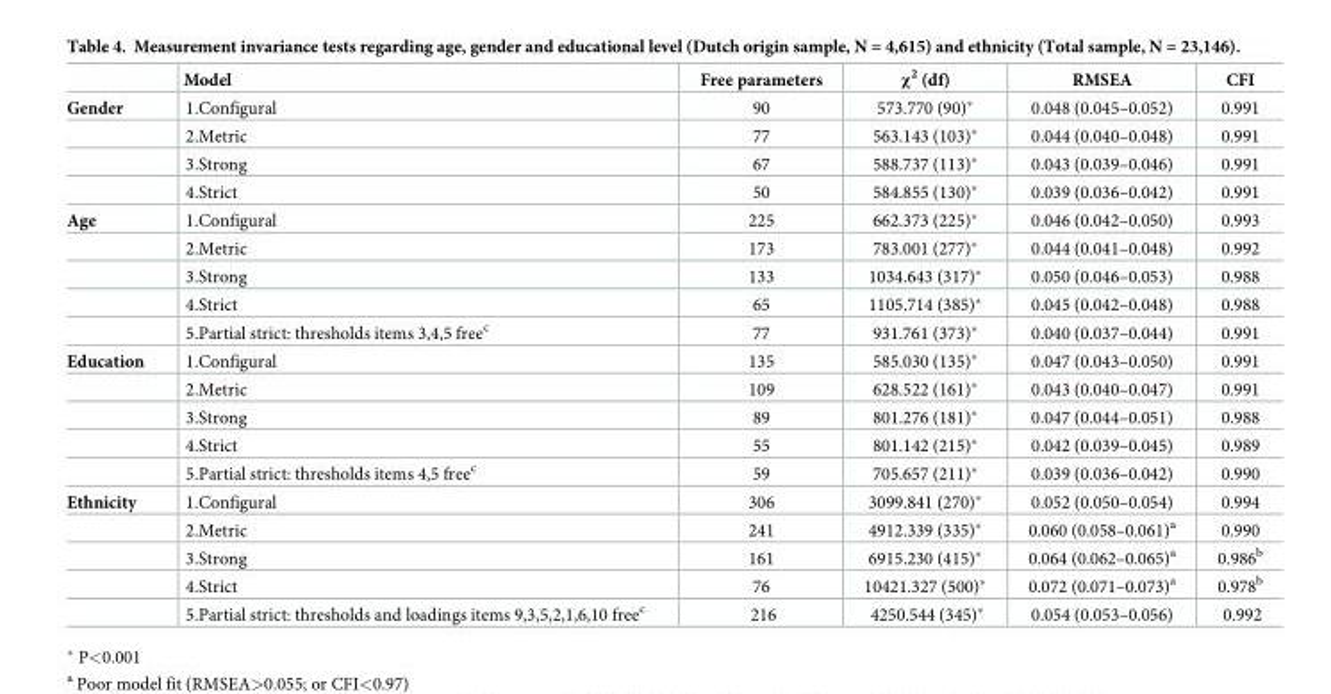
<table><thead><tr><td></td><td>Model</td><td>Free parameters</td><td>χ<sup>2</sup> (df)</td><td>RMSEA</td><td>CFI</td></tr></thead><tbody><tr><td rowspan="4">Gender</td><td>1.Configural</td><td>90</td><td>573.770 (90)*</td><td>0.048 (0.045–0.052)</td><td>0.991</td></tr><tr><td>2.Metric</td><td>77</td><td>563.143 (103)*</td><td>0.044 (0.040–0.048)</td><td>0.991</td></tr><tr><td>3.Strong</td><td>67</td><td>588.737 (113)*</td><td>0.043 (0.039–0.046)</td><td>0.991</td></tr><tr><td>4.Strict</td><td>50</td><td>584.855 (130)*</td><td>0.039 (0.036–0.042)</td><td>0.991</td></tr><tr><td rowspan="5">Age</td><td>1.Configural</td><td>225</td><td>662.373 (225)*</td><td>0.046 (0.042–0.050)</td><td>0.993</td></tr><tr><td>2.Metric</td><td>173</td><td>783.001 (277)*</td><td>0.044 (0.041–0.048)</td><td>0.992</td></tr><tr><td>3.Strong</td><td>133</td><td>1034.643 (317)*</td><td>0.050 (0.046–0.053)</td><td>0.988</td></tr><tr><td>4.Strict</td><td>65</td><td>1105.714 (385)*</td><td>0.045 (0.042–0.048)</td><td>0.988</td></tr><tr><td>5.Partial strict: thresholds items 3,4,5 free<sup>c</sup></td><td>77</td><td>931.761 (373)*</td><td>0.040 (0.037–0.044)</td><td>0.991</td></tr><tr><td rowspan="5">Education</td><td>1.Configural</td><td>135</td><td>585.030 (135)*</td><td>0.047 (0.043–0.050)</td><td>0.991</td></tr><tr><td>2.Metric</td><td>109</td><td>628.522 (161)*</td><td>0.043 (0.040–0.047)</td><td>0.991</td></tr><tr><td>3.Strong</td><td>89</td><td>801.276 (181)*</td><td>0.047 (0.044–0.051)</td><td>0.988</td></tr><tr><td>4.Strict</td><td>55</td><td>801.142 (215)*</td><td>0.042 (0.039–0.045)</td><td>0.989</td></tr><tr><td>5.Partial strict: thresholds items 4,5 free<sup>c</sup></td><td>59</td><td>705.657 (211)*</td><td>0.039 (0.036–0.042)</td><td>0.990</td></tr><tr><td rowspan="5">Ethnicity</td><td>1.Configural</td><td>306</td><td>3099.841 (270)*</td><td>0.052 (0.050–0.054)</td><td>0.994</td></tr><tr><td>2.Metric</td><td>241</td><td>4912.339 (335)*</td><td>0.060 (0.058–0.061)<sup>a</sup></td><td>0.990</td></tr><tr><td>3.Strong</td><td>161</td><td>6915.230 (415)*</td><td>0.064 (0.062–0.065)<sup>a</sup></td><td>0.986<sup>b</sup></td></tr><tr><td>4.Strict</td><td>76</td><td>10421.327 (500)*</td><td>0.072 (0.071–0.073)<sup>a</sup></td><td>0.978<sup>b</sup></td></tr><tr><td>5.Partial strict: thresholds and loadings items 9,3,5,2,1,6,10 free<sup>c</sup></td><td>216</td><td>4250.544 (345)*</td><td>0.054 (0.053–0.056)</td><td>0.992</td></tr></tbody></table>